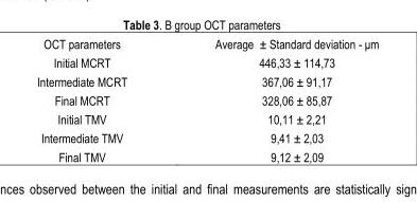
<table><tbody><tr><td>OCT parameters</td><td>Average ± Standard deviation - μm</td></tr><tr><td>Initial MCRT</td><td>446,33 ± 114,73</td></tr><tr><td>Intermediate MCRT</td><td>367,06 ± 91,17</td></tr><tr><td>Final MCRT</td><td>328,06 ± 85,87</td></tr><tr><td>Initial TMV</td><td>10,11 ± 2,21</td></tr><tr><td>Intermediate TMV</td><td>9,41 ± 2,03</td></tr><tr><td>Final TMV</td><td>9,12 ± 2,09</td></tr></tbody></table>